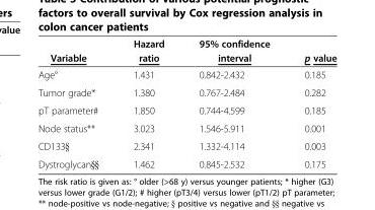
<table><thead><tr><td rowspan="2">Variable</td><td rowspan="2">Hazard ratio</td><td rowspan="2">95% confidence interval</td><td rowspan="2">p value</td></tr><tr></tr></thead><tbody><tr><td>Age°</td><td>1.431</td><td>0.842-2.432</td><td>0.185</td></tr><tr><td>Tumor grade*</td><td>1.380</td><td>0.767-2.484</td><td>0.282</td></tr><tr><td>pT parameter#</td><td>1.850</td><td>0.744-4.599</td><td>0.185</td></tr><tr><td>Node status**</td><td>3.023</td><td>1.546-5.911</td><td>0.001</td></tr><tr><td>CD133§</td><td>2.341</td><td>1.332-4.114</td><td>0.003</td></tr><tr><td>Dystroglycan§§</td><td>1.462</td><td>0.845-2.532</td><td>0.175</td></tr></tbody></table>